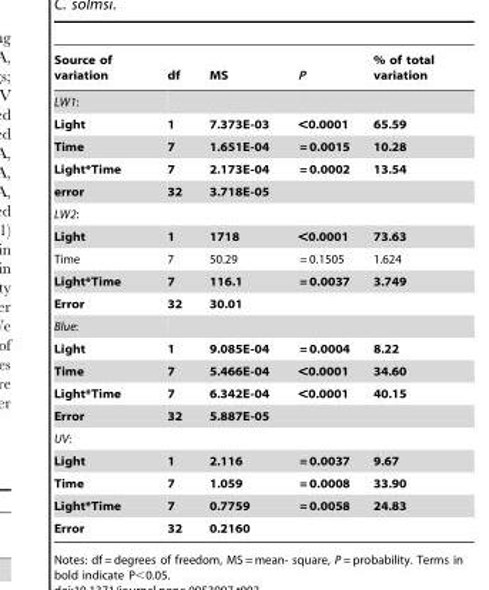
<table><thead><tr><td>Source of variation</td><td>df</td><td>MS</td><td>P</td><td>% of total variation</td></tr></thead><tbody><tr><td colspan="5">LW1:</td></tr><tr><td>Light</td><td>1</td><td>7.373E-03</td><td>&lt;0.0001</td><td>65.59</td></tr><tr><td>Time</td><td>7</td><td>1.651E-04</td><td>= 0.0015</td><td>10.28</td></tr><tr><td>Light*Time</td><td>7</td><td>2.173E-04</td><td>= 0.0002</td><td>13.54</td></tr><tr><td>error</td><td>32</td><td>3.718E-05</td><td></td><td></td></tr><tr><td colspan="5">LW2:</td></tr><tr><td>Light</td><td>1</td><td>1718</td><td>&lt;0.0001</td><td>73.63</td></tr><tr><td>Time</td><td>7</td><td>50.29</td><td>= 0.1505</td><td>1.624</td></tr><tr><td>Light*Time</td><td>7</td><td>116.1</td><td>= 0.0037</td><td>3.749</td></tr><tr><td>Error</td><td>32</td><td>30.01</td><td></td><td></td></tr><tr><td colspan="5">Blue:</td></tr><tr><td>Light</td><td>1</td><td>9.085E-04</td><td>= 0.0004</td><td>8.22</td></tr><tr><td>Time</td><td>7</td><td>5.466E-04</td><td>&lt;0.0001</td><td>34.60</td></tr><tr><td>Light*Time</td><td>7</td><td>6.342E-04</td><td>&lt;0.0001</td><td>40.15</td></tr><tr><td>Error</td><td>32</td><td>5.887E-05</td><td></td><td></td></tr><tr><td colspan="5">UV:</td></tr><tr><td>Light</td><td>1</td><td>2.116</td><td>= 0.0037</td><td>9.67</td></tr><tr><td>Time</td><td>7</td><td>1.059</td><td>= 0.0008</td><td>33.90</td></tr><tr><td>Light*Time</td><td>7</td><td>0.7759</td><td>= 0.0058</td><td>24.83</td></tr><tr><td>Error</td><td>32</td><td>0.2160</td><td></td><td></td></tr></tbody></table>